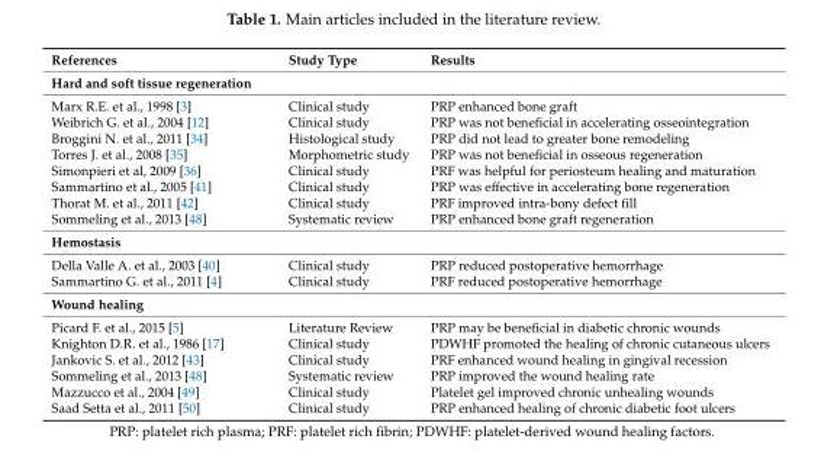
<table><thead><tr><td>References</td><td>Study Type</td><td>Results</td></tr></thead><tbody><tr><td colspan="3">Hard and soft tissue regeneration</td></tr><tr><td>Marx R.E. et al., 1998 [3]</td><td>Clinical study</td><td>PRP enhanced bone graft</td></tr><tr><td>Weibrich G. et al., 2004 [12]</td><td>Clinical study</td><td>PRP was not beneficial in accelerating osseointegration</td></tr><tr><td>Broggini N. et al., 2011 [34]</td><td>Histological study</td><td>PRP did not lead to greater bone remodeling</td></tr><tr><td>Torres J. et al., 2008 [35]</td><td>Morphometric study</td><td>PRP was not beneficial in osseous regeneration</td></tr><tr><td>Simonpieri et al, 2009 [36]</td><td>Clinical study</td><td>PRF was helpful for periosteum healing and maturation</td></tr><tr><td>Sammartino et al., 2005 [41]</td><td>Clinical study</td><td>PRP was effective in accelerating bone regeneration</td></tr><tr><td>Thorat M. et al., 2011 [42]</td><td>Clinical study</td><td>PRF improved intra-bony defect fill</td></tr><tr><td>Sommeling et al., 2013 [48]</td><td>Systematic review</td><td>PRP enhanced bone graft regeneration</td></tr><tr><td colspan="3">Hemostasis</td></tr><tr><td>Della Valle A. et al., 2003 [40]</td><td>Clinical study</td><td>PRP reduced postoperative hemorrhage</td></tr><tr><td>Sammartino G. et al., 2011 [4]</td><td>Clinical study</td><td>PRF reduced postoperative hemorrhage</td></tr><tr><td colspan="3">Wound healing</td></tr><tr><td>Picard F. et al., 2015 [5]</td><td>Literature Review</td><td>PRP may be beneficial in diabetic chronic wounds</td></tr><tr><td>Knighton D.R. et al., 1986 [17]</td><td>Clinical study</td><td>PDWHF promoted the healing of chronic cutaneous ulcers</td></tr><tr><td>Jankovic S. et al., 2012 [43]</td><td>Clinical study</td><td>PRF enhanced wound healing in gingival recession</td></tr><tr><td>Sommeling et al., 2013 [48]</td><td>Systematic review</td><td>PRP improved the wound healing rate</td></tr><tr><td>Mazzucco et al., 2004 [49]</td><td>Clinical study</td><td>Platelet gel improved chronic unhealing wounds</td></tr><tr><td>Saad Setta et al., 2011 [50]</td><td>Clinical study</td><td>PRP enhanced healing of chronic diabetic foot ulcers</td></tr></tbody></table>